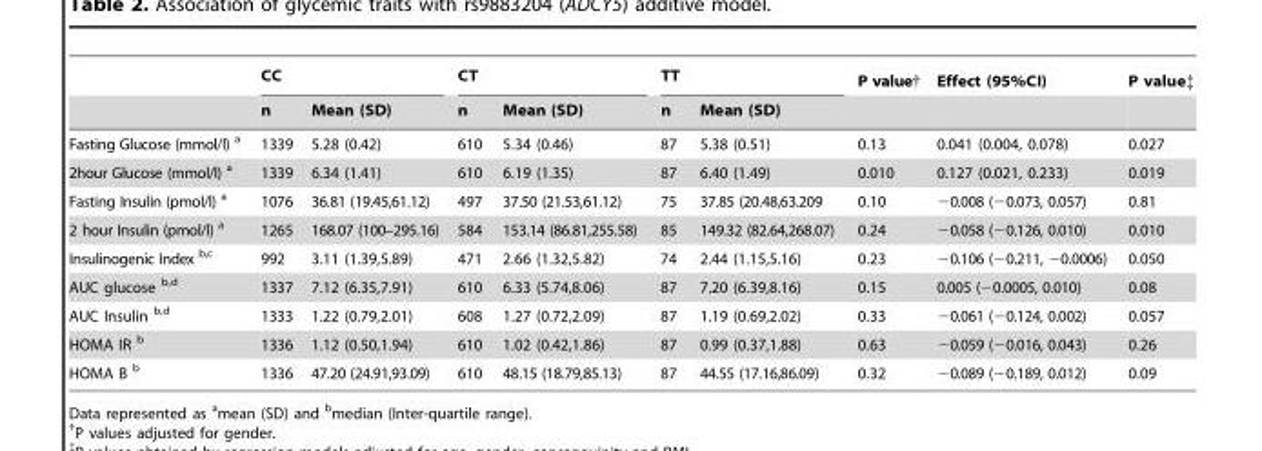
<table><thead><tr><td rowspan="2"></td><td colspan="2">CC</td><td colspan="2">CT</td><td colspan="2">TT</td><td rowspan="2">P value†</td><td rowspan="2">Effect (95%CI)</td><td rowspan="2">P value‡</td></tr><tr><td>n</td><td>Mean (SD)</td><td>n</td><td>Mean (SD)</td><td>n</td><td>Mean (SD)</td></tr></thead><tbody><tr><td>Fasting Glucose (mmol/l) a</td><td>1339</td><td>5.28 (0.42)</td><td>610</td><td>5.34 (0.46)</td><td>87</td><td>5.38 (0.51)</td><td>0.13</td><td>0.041 (0.004, 0.078)</td><td>0.027</td></tr><tr><td>2hour Glucose (mmol/l) a</td><td>1339</td><td>6.34 (1.41)</td><td>610</td><td>6.19 (1.35)</td><td>87</td><td>6.40 (1.49)</td><td>0.010</td><td>0.127 (0.021, 0.233)</td><td>0.019</td></tr><tr><td>Fasting Insulin (pmol/l) a</td><td>1076</td><td>36.81 (19.45,61.12)</td><td>497</td><td>37.50 (21.53,61.12)</td><td>75</td><td>37.85 (20.48,63.209</td><td>0.10</td><td>−0.008 (−0.073, 0.057)</td><td>0.81</td></tr><tr><td>2 hour Insulin (pmol/l) a</td><td>1265</td><td>168.07 (100–295.16)</td><td>584</td><td>153.14 (86.81,255.58)</td><td>85</td><td>149.32 (82.64,268.07)</td><td>0.24</td><td>−0.058 (−0.126, 0.010)</td><td>0.010</td></tr><tr><td>Insulinogenic Index b,c</td><td>992</td><td>3.11 (1.39,5.89)</td><td>471</td><td>2.66 (1.32,5.82)</td><td>74</td><td>2.44 (1.15,5.16)</td><td>0.23</td><td>−0.106 (−0.211, −0.0006)</td><td>0.050</td></tr><tr><td>AUC glucose b,<sup>d</sup></td><td>1337</td><td>7.12 (6.35,7.91)</td><td>610</td><td>6.33 (5.74,8.06)</td><td>87</td><td>7.20 (6.39,8.16)</td><td>0.15</td><td>0.005 (−0.0005, 0.010)</td><td>0.08</td></tr><tr><td>AUC Insulin b,<sup>d</sup></td><td>1333</td><td>1.22 (0.79,2.01)</td><td>608</td><td>1.27 (0.72,2.09)</td><td>87</td><td>1.19 (0.69,2.02)</td><td>0.33</td><td>−0.061 (−0.124, 0.002)</td><td>0.057</td></tr><tr><td>HOMA IR b</td><td>1336</td><td>1.12 (0.50,1.94)</td><td>610</td><td>1.02 (0.42,1.86)</td><td>87</td><td>0.99 (0.37,1.88)</td><td>0.63</td><td>−0.059 (−0.016, 0.043)</td><td>0.26</td></tr><tr><td>HOMA B b</td><td>1336</td><td>47.20 (24.91,93.09)</td><td>610</td><td>48.15 (18.79,85.13)</td><td>87</td><td>44.55 (17.16,86.09)</td><td>0.32</td><td>−0.089 (−0.189, 0.012)</td><td>0.09</td></tr></tbody></table>